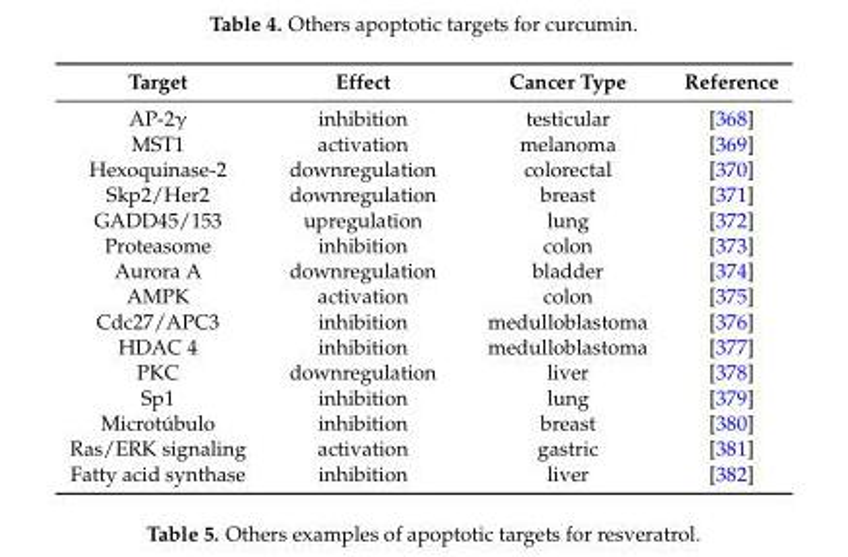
<table><thead><tr><td>Target</td><td>Effect</td><td>Cancer Type</td><td>Reference</td></tr></thead><tbody><tr><td>AP-2γ</td><td>inhibition</td><td>testicular</td><td>[368]</td></tr><tr><td>MST1</td><td>activation</td><td>melanoma</td><td>[369]</td></tr><tr><td>Hexoquinase-2</td><td>downregulation</td><td>colorectal</td><td>[370]</td></tr><tr><td>Skp2/Her2</td><td>downregulation</td><td>breast</td><td>[371]</td></tr><tr><td>GADD45/153</td><td>upregulation</td><td>lung</td><td>[372]</td></tr><tr><td>Proteasome</td><td>inhibition</td><td>colon</td><td>[373]</td></tr><tr><td>Aurora A</td><td>downregulation</td><td>bladder</td><td>[374]</td></tr><tr><td>AMPK</td><td>activation</td><td>colon</td><td>[375]</td></tr><tr><td>Cdc27/APC3</td><td>inhibition</td><td>medulloblastoma</td><td>[376]</td></tr><tr><td>HDAC 4</td><td>inhibition</td><td>medulloblastoma</td><td>[377]</td></tr><tr><td>PKC</td><td>downregulation</td><td>liver</td><td>[378]</td></tr><tr><td>Sp1</td><td>inhibition</td><td>lung</td><td>[379]</td></tr><tr><td>Microtúbulo</td><td>inhibition</td><td>breast</td><td>[380]</td></tr><tr><td>Ras/ERK signaling</td><td>activation</td><td>gastric</td><td>[381]</td></tr><tr><td>Fatty acid synthase</td><td>inhibition</td><td>liver</td><td>[382]</td></tr></tbody></table>